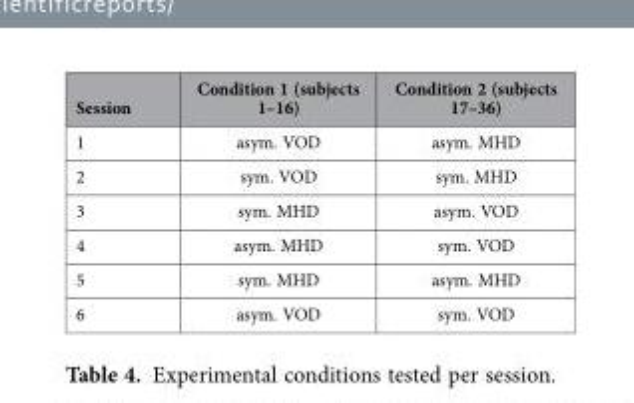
<table><thead><tr><td>Session</td><td>Condition 1 (subjects 1–16)</td><td>Condition 2 (subjects 17–36)</td></tr></thead><tbody><tr><td>1</td><td>asym. VOD</td><td>asym. MHD</td></tr><tr><td>2</td><td>sym. VOD</td><td>sym. MHD</td></tr><tr><td>3</td><td>sym. MHD</td><td>asym. VOD</td></tr><tr><td>4</td><td>asym. MHD</td><td>sym. VOD</td></tr><tr><td>5</td><td>sym. MHD</td><td>asym. MHD</td></tr><tr><td>6</td><td>asym. VOD</td><td>sym. VOD</td></tr></tbody></table>